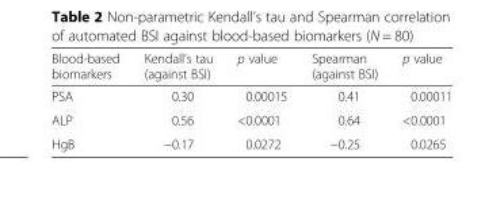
<table><thead><tr><td>Blood-based biomarkers</td><td>Kendall’s tau (against BSI)</td><td>p value</td><td>Spearman (against BSI)</td><td>p value</td></tr></thead><tbody><tr><td>PSA</td><td>0.30</td><td>0.00015</td><td>0.41</td><td>0.00011</td></tr><tr><td>ALP</td><td>0.56</td><td>&lt;0.0001</td><td>0.64</td><td>&lt;0.0001</td></tr><tr><td>HgB</td><td>−0.17</td><td>0.0272</td><td>−0.25</td><td>0.0265</td></tr></tbody></table>